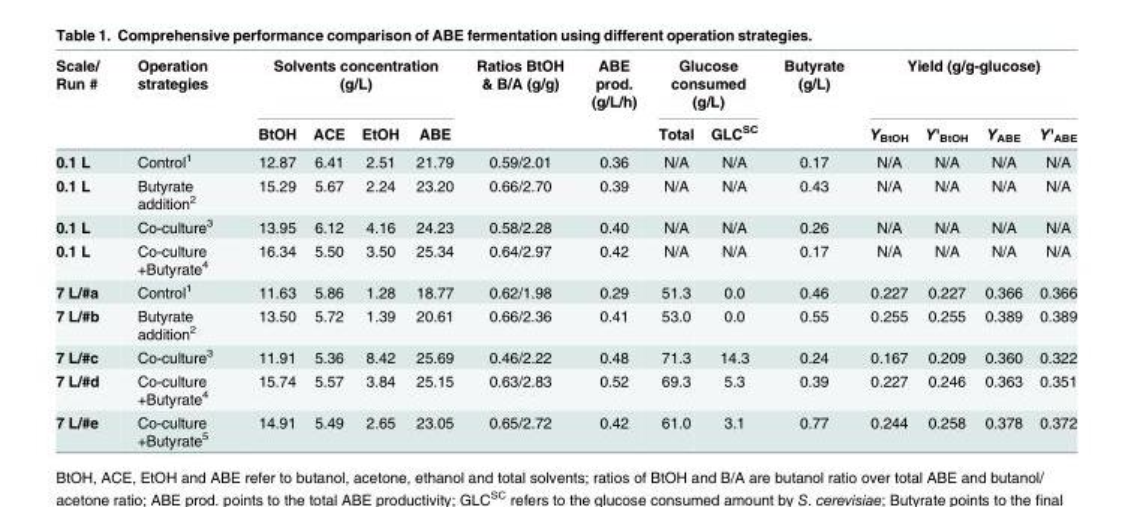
<table><thead><tr><td rowspan="2">Scale/ Run #</td><td rowspan="2">Operation strategies</td><td colspan="4">Solvents concentration (g/L)</td><td rowspan="2">Ratios BtOH &amp; B/A (g/g)</td><td rowspan="2">ABE prod. (g/L/h)</td><td colspan="2">Glucose consumed (g/L)</td><td rowspan="2">Butyrate (g/L)</td><td colspan="4">Yield (g/g-glucose)</td></tr><tr><td>BtOH</td><td>ACE</td><td>EtOH</td><td>ABE</td><td>Total</td><td>GLC<sup>SC</sup></td><td>Y<sub>BtOH</sub></td><td>Y&#x27;<sub>BtOH</sub></td><td>Y<sub>ABE</sub></td><td>Y&#x27;<sub>ABE</sub></td></tr></thead><tbody><tr><td>0.1 L</td><td>Control<sup>1</sup></td><td>12.87</td><td>6.41</td><td>2.51</td><td>21.79</td><td>0.59/2.01</td><td>0.36</td><td>N/A</td><td>N/A</td><td>0.17</td><td>N/A</td><td>N/A</td><td>N/A</td><td>N/A</td></tr><tr><td>0.1 L</td><td>Butyrate addition<sup>2</sup></td><td>15.29</td><td>5.67</td><td>2.24</td><td>23.20</td><td>0.66/2.70</td><td>0.39</td><td>N/A</td><td>N/A</td><td>0.43</td><td>N/A</td><td>N/A</td><td>N/A</td><td>N/A</td></tr><tr><td>0.1 L</td><td>Co-culture<sup>3</sup></td><td>13.95</td><td>6.12</td><td>4.16</td><td>24.23</td><td>0.58/2.28</td><td>0.40</td><td>N/A</td><td>N/A</td><td>0.26</td><td>N/A</td><td>N/A</td><td>N/A</td><td>N/A</td></tr><tr><td>0.1 L</td><td>Co-culture +Butyrate<sup>4</sup></td><td>16.34</td><td>5.50</td><td>3.50</td><td>25.34</td><td>0.64/2.97</td><td>0.42</td><td>N/A</td><td>N/A</td><td>0.17</td><td>N/A</td><td>N/A</td><td>N/A</td><td>N/A</td></tr><tr><td>7 L/#a</td><td>Control<sup>1</sup></td><td>11.63</td><td>5.86</td><td>1.28</td><td>18.77</td><td>0.62/1.98</td><td>0.29</td><td>51.3</td><td>0.0</td><td>0.46</td><td>0.227</td><td>0.227</td><td>0.366</td><td>0.366</td></tr><tr><td>7 L/#b</td><td>Butyrate addition<sup>2</sup></td><td>13.50</td><td>5.72</td><td>1.39</td><td>20.61</td><td>0.66/2.36</td><td>0.41</td><td>53.0</td><td>0.0</td><td>0.55</td><td>0.255</td><td>0.255</td><td>0.389</td><td>0.389</td></tr><tr><td>7 L/#c</td><td>Co-culture<sup>3</sup></td><td>11.91</td><td>5.36</td><td>8.42</td><td>25.69</td><td>0.46/2.22</td><td>0.48</td><td>71.3</td><td>14.3</td><td>0.24</td><td>0.167</td><td>0.209</td><td>0.360</td><td>0.322</td></tr><tr><td>7 L/#d</td><td>Co-culture +Butyrate<sup>4</sup></td><td>15.74</td><td>5.57</td><td>3.84</td><td>25.15</td><td>0.63/2.83</td><td>0.52</td><td>69.3</td><td>5.3</td><td>0.39</td><td>0.227</td><td>0.246</td><td>0.363</td><td>0.351</td></tr><tr><td>7 L/#e</td><td>Co-culture +Butyrate<sup>5</sup></td><td>14.91</td><td>5.49</td><td>2.65</td><td>23.05</td><td>0.65/2.72</td><td>0.42</td><td>61.0</td><td>3.1</td><td>0.77</td><td>0.244</td><td>0.258</td><td>0.378</td><td>0.372</td></tr></tbody></table>